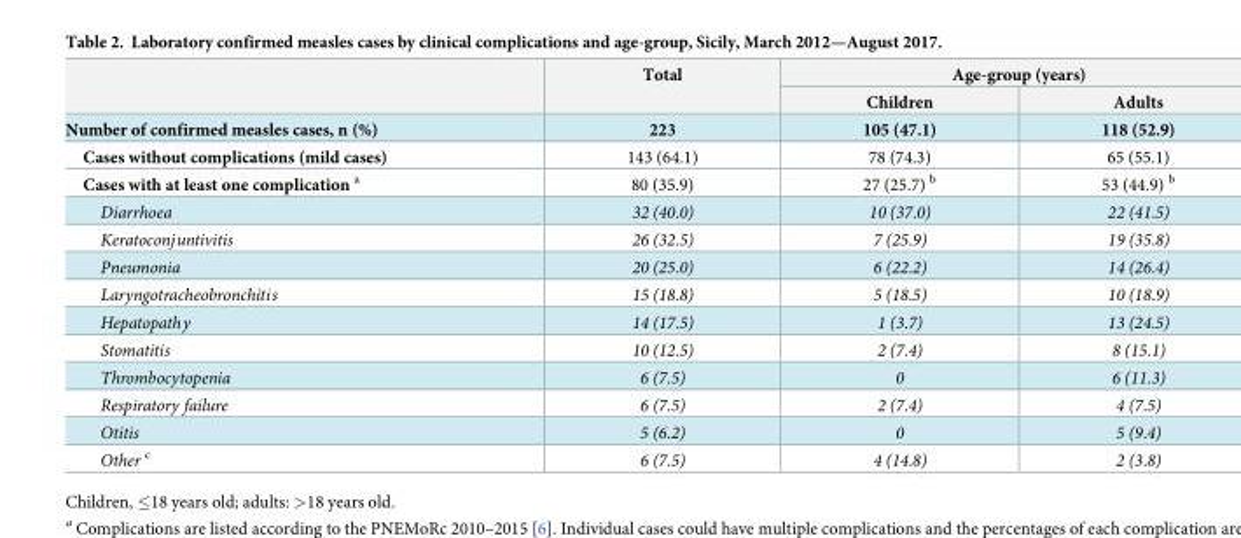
<table><thead><tr><td rowspan="2"></td><td rowspan="2">Total</td><td colspan="2">Age-group (years)</td></tr><tr><td>Children</td><td>Adults</td></tr></thead><tbody><tr><td>Number of confirmed measles cases, n (%)</td><td>223</td><td>105 (47.1)</td><td>118 (52.9)</td></tr><tr><td>Cases without complications (mild cases)</td><td>143 (64.1)</td><td>78 (74.3)</td><td>65 (55.1)</td></tr><tr><td>Cases with at least one complication <sup>a</sup></td><td>80 (35.9)</td><td>27 (25.7) <sup>b</sup></td><td>53 (44.9) <sup>b</sup></td></tr><tr><td>Diarrhoea</td><td>32 (40.0)</td><td>10 (37.0)</td><td>22 (41.5)</td></tr><tr><td>Keratoconjuntivitis</td><td>26 (32.5)</td><td>7 (25.9)</td><td>19 (35.8)</td></tr><tr><td>Pneumonia</td><td>20 (25.0)</td><td>6 (22.2)</td><td>14 (26.4)</td></tr><tr><td>Laryngotracheobronchitis</td><td>15 (18.8)</td><td>5 (18.5)</td><td>10 (18.9)</td></tr><tr><td>Hepatopathy</td><td>14 (17.5)</td><td>1 (3.7)</td><td>13 (24.5)</td></tr><tr><td>Stomatitis</td><td>10 (12.5)</td><td>2 (7.4)</td><td>8 (15.1)</td></tr><tr><td>Thrombocytopenia</td><td>6 (7.5)</td><td>0</td><td>6 (11.3)</td></tr><tr><td>Respiratory failure</td><td>6 (7.5)</td><td>2 (7.4)</td><td>4 (7.5)</td></tr><tr><td>Otitis</td><td>5 (6.2)</td><td>0</td><td>5 (9.4)</td></tr><tr><td>Other <sup>c</sup></td><td>6 (7.5)</td><td>4 (14.8)</td><td>2 (3.8)</td></tr></tbody></table>